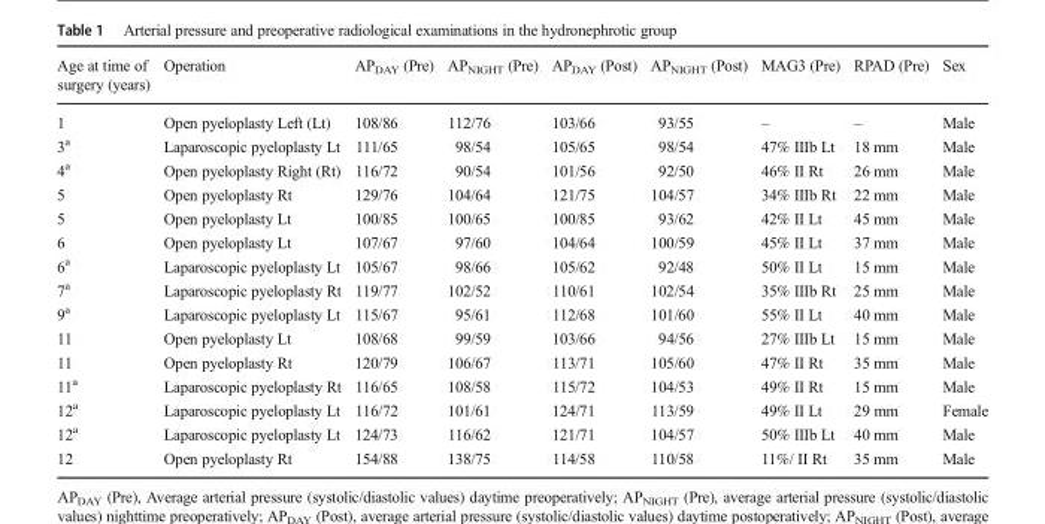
<table><thead><tr><td>Age at time of surgery (years)</td><td>Operation</td><td>AP<sub>DAY</sub> (Pre)</td><td>AP<sub>NIGHT</sub> (Pre)</td><td>AP<sub>DAY</sub> (Post)</td><td>AP<sub>NIGHT</sub> (Post)</td><td>MAG3 (Pre)</td><td>RPAD (Pre)</td><td>Sex</td></tr></thead><tbody><tr><td>1</td><td>Open pyeloplasty Left (Lt)</td><td>108/86</td><td>112/76</td><td>103/66</td><td>93/55</td><td>–</td><td>–</td><td>Male</td></tr><tr><td>3<sup>a</sup></td><td>Laparoscopic pyeloplasty Lt</td><td>111/65</td><td>98/54</td><td>105/65</td><td>98/54</td><td>47% IIIb Lt</td><td>18 mm</td><td>Male</td></tr><tr><td>4<sup>a</sup></td><td>Open pyeloplasty Right (Rt)</td><td>116/72</td><td>90/54</td><td>101/56</td><td>92/50</td><td>46% II Rt</td><td>26 mm</td><td>Male</td></tr><tr><td>5</td><td>Open pyeloplasty Rt</td><td>129/76</td><td>104/64</td><td>121/75</td><td>104/57</td><td>34% IIIb Rt</td><td>22 mm</td><td>Male</td></tr><tr><td>5</td><td>Open pyeloplasty Lt</td><td>100/85</td><td>100/65</td><td>100/85</td><td>93/62</td><td>42% II Lt</td><td>45 mm</td><td>Male</td></tr><tr><td>6</td><td>Open pyeloplasty Lt</td><td>107/67</td><td>97/60</td><td>104/64</td><td>100/59</td><td>45% II Lt</td><td>37 mm</td><td>Male</td></tr><tr><td>6<sup>a</sup></td><td>Laparoscopic pyeloplasty Lt</td><td>105/67</td><td>98/66</td><td>105/62</td><td>92/48</td><td>50% II Lt</td><td>15 mm</td><td>Male</td></tr><tr><td>7<sup>a</sup></td><td>Laparoscopic pyeloplasty Rt</td><td>119/77</td><td>102/52</td><td>110/61</td><td>102/54</td><td>35% IIIb Rt</td><td>25 mm</td><td>Male</td></tr><tr><td>9<sup>a</sup></td><td>Laparoscopic pyeloplasty Lt</td><td>115/67</td><td>95/61</td><td>112/68</td><td>101/60</td><td>55% II Lt</td><td>40 mm</td><td>Male</td></tr><tr><td>11</td><td>Open pyeloplasty Lt</td><td>108/68</td><td>99/59</td><td>103/66</td><td>94/56</td><td>27% IIIb Lt</td><td>15 mm</td><td>Male</td></tr><tr><td>11</td><td>Open pyeloplasty Rt</td><td>120/79</td><td>106/67</td><td>113/71</td><td>105/60</td><td>47% II Rt</td><td>35 mm</td><td>Male</td></tr><tr><td>11<sup>a</sup></td><td>Laparoscopic pyeloplasty Rt</td><td>116/65</td><td>108/58</td><td>115/72</td><td>104/53</td><td>49% II Rt</td><td>15 mm</td><td>Male</td></tr><tr><td>12<sup>a</sup></td><td>Laparoscopic pyeloplasty Lt</td><td>116/72</td><td>101/61</td><td>124/71</td><td>113/59</td><td>49% II Lt</td><td>29 mm</td><td>Female</td></tr><tr><td>12<sup>a</sup></td><td>Laparoscopic pyeloplasty Lt</td><td>124/73</td><td>116/62</td><td>121/71</td><td>104/57</td><td>50% IIIb Lt</td><td>40 mm</td><td>Male</td></tr><tr><td>12</td><td>Open pyeloplasty Rt</td><td>154/88</td><td>138/75</td><td>114/58</td><td>110/58</td><td>11%/ II Rt</td><td>35 mm</td><td>Male</td></tr></tbody></table>